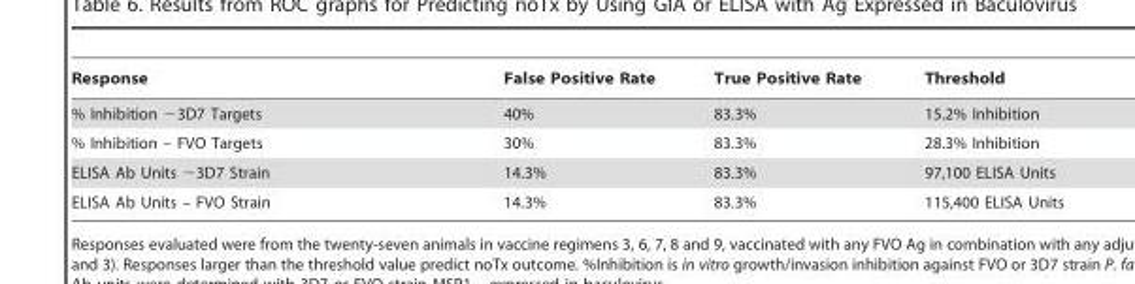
<table><thead><tr><td>Response</td><td>False Positive Rate</td><td>True Positive Rate</td><td>Threshold</td></tr></thead><tbody><tr><td>% Inhibition −3D7 Targets</td><td>40%</td><td>83.3%</td><td>15.2% Inhibition</td></tr><tr><td>% Inhibition – FVO Targets</td><td>30%</td><td>83.3%</td><td>28.3% Inhibition</td></tr><tr><td>ELISA Ab Units −3D7 Strain</td><td>14.3%</td><td>83.3%</td><td>97,100 ELISA Units</td></tr><tr><td>ELISA Ab Units – FVO Strain</td><td>14.3%</td><td>83.3%</td><td>115,400 ELISA Units</td></tr></tbody></table>